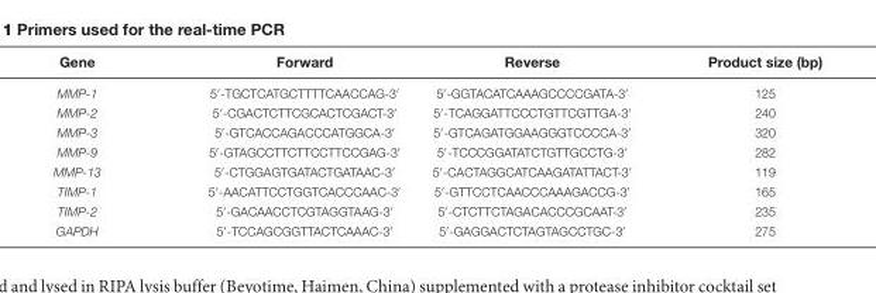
<table><thead><tr><td>Gene</td><td>Forward</td><td>Reverse</td><td>Product size (bp)</td></tr></thead><tbody><tr><td>MMP-1</td><td>5′-TGCTCATGCTTTTCAACCAG-3′</td><td>5′-GGTACATCAAAGCCCCGATA-3′</td><td>125</td></tr><tr><td>MMP-2</td><td>5′-CGACTCTTCGCACTCGACT-3′</td><td>5′-TCAGGATTCCCTGTTCGTTGA-3′</td><td>240</td></tr><tr><td>MMP-3</td><td>5′-GTCACCAGACCCATGGCA-3′</td><td>5′-GTCAGATGGAAGGGTCCCCA-3′</td><td>320</td></tr><tr><td>MMP-9</td><td>5′-GTAGCCTTCTTCCTTCCGAG-3′</td><td>5′-TCCCGGATATCTGTTGCCTG-3′</td><td>282</td></tr><tr><td>MMP-13</td><td>5′-CTGGAGTGATACTGATAAC-3′</td><td>5′-CACTAGGCATCAAGATATTACT-3′</td><td>119</td></tr><tr><td>TIMP-1</td><td>5′-AACATTCCTGGTCACCCAAC-3′</td><td>5′-GTTCCTCAACCCAAAGACCG-3′</td><td>165</td></tr><tr><td>TIMP-2</td><td>5′-GACAACCTCGTAGGTAAG-3′</td><td>5′-CTCTTCTAGACACCCGCAAT-3′</td><td>235</td></tr><tr><td>GAPDH</td><td>5′-TCCAGCGGTTACTCAAAC-3′</td><td>5′-GAGGACTCTAGTAGCCTGC-3′</td><td>275</td></tr></tbody></table>